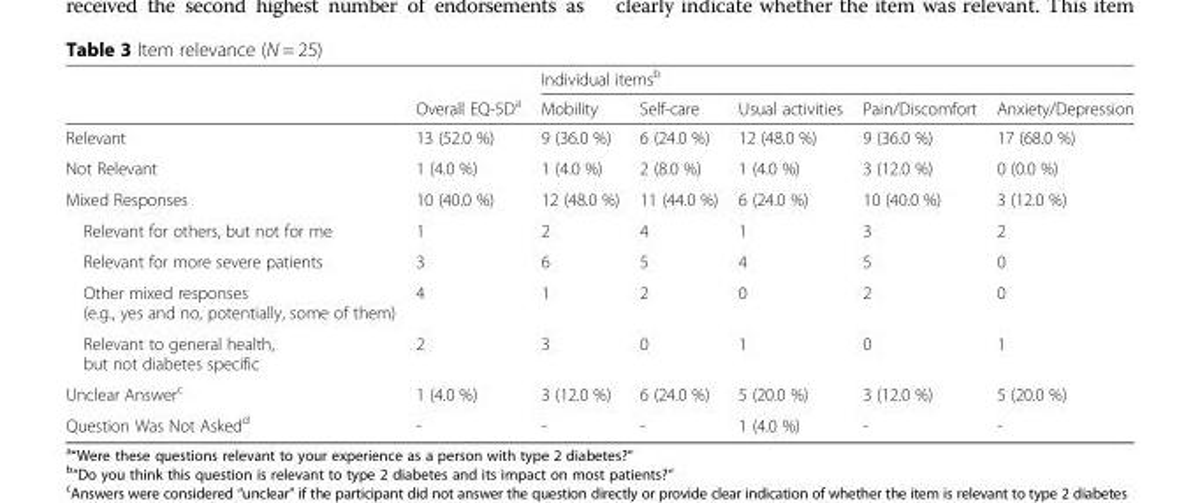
<table><thead><tr><td rowspan="2"></td><td rowspan="2">Overall EQ-5D<sup>a</sup></td><td colspan="5">Individual items<sup>b</sup></td></tr><tr><td>Mobility</td><td>Self-care</td><td>Usual activities</td><td>Pain/Discomfort</td><td>Anxiety/Depression</td></tr></thead><tbody><tr><td>Relevant</td><td>13 (52.0 %)</td><td>9 (36.0 %)</td><td>6 (24.0 %)</td><td>12 (48.0 %)</td><td>9 (36.0 %)</td><td>17 (68.0 %)</td></tr><tr><td>Not Relevant</td><td>1 (4.0 %)</td><td>1 (4.0 %)</td><td>2 (8.0 %)</td><td>1 (4.0 %)</td><td>3 (12.0 %)</td><td>0 (0.0 %)</td></tr><tr><td>Mixed Responses</td><td>10 (40.0 %)</td><td>12 (48.0 %)</td><td>11 (44.0 %)</td><td>6 (24.0 %)</td><td>10 (40.0 %)</td><td>3 (12.0 %)</td></tr><tr><td>Relevant for others, but not for me</td><td>1</td><td>2</td><td>4</td><td>1</td><td>3</td><td>2</td></tr><tr><td>Relevant for more severe patients</td><td>3</td><td>6</td><td>5</td><td>4</td><td>5</td><td>0</td></tr><tr><td>Other mixed responses (e.g., yes and no, potentially, some of them)</td><td>4</td><td>1</td><td>2</td><td>0</td><td>2</td><td>0</td></tr><tr><td>Relevant to general health, but not diabetes specific</td><td>2</td><td>3</td><td>0</td><td>1</td><td>0</td><td>1</td></tr><tr><td>Unclear Answer<sup>c</sup></td><td>1 (4.0 %)</td><td>3 (12.0 %)</td><td>6 (24.0 %)</td><td>5 (20.0 %)</td><td>3 (12.0 %)</td><td>5 (20.0 %)</td></tr><tr><td>Question Was Not Asked<sup>d</sup></td><td>-</td><td>-</td><td>-</td><td>1 (4.0 %)</td><td>-</td><td>-</td></tr></tbody></table>